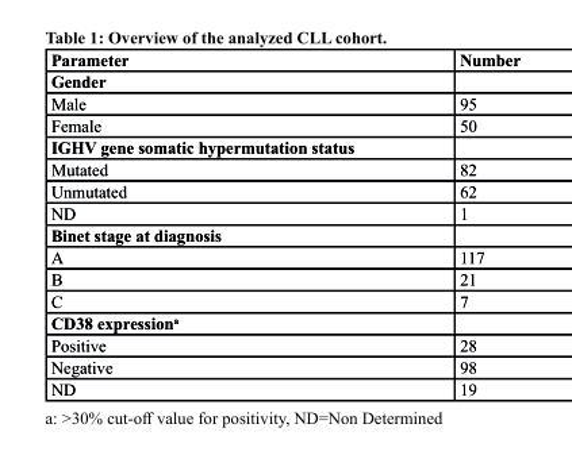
<table><thead><tr><td>Parameter</td><td>Number</td></tr></thead><tbody><tr><td colspan="2">Gender</td></tr><tr><td>Male</td><td>95</td></tr><tr><td>Female</td><td>50</td></tr><tr><td colspan="2">IGHV gene somatic hypermutation status</td></tr><tr><td>Mutated</td><td>82</td></tr><tr><td>Unmutated</td><td>62</td></tr><tr><td>ND</td><td>1</td></tr><tr><td colspan="2">binet stage at diagnosis</td></tr><tr><td>A</td><td>117</td></tr><tr><td>B</td><td>21</td></tr><tr><td>C</td><td>7</td></tr><tr><td colspan="2">cD38 expression<sup>a</sup></td></tr><tr><td>Positive</td><td>28</td></tr><tr><td>Negative</td><td>98</td></tr><tr><td>ND</td><td>19</td></tr></tbody></table>